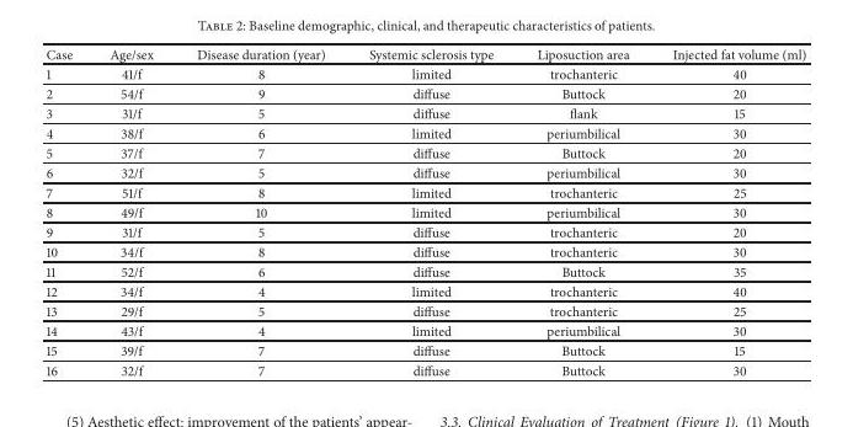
<table><thead><tr><td>Case</td><td>Age/sex</td><td>Disease duration (year)</td><td>Systemic sclerosis type</td><td>Liposuction area</td><td>Injected fat volume (ml)</td></tr></thead><tbody><tr><td>1</td><td>41/f</td><td>8</td><td>limited</td><td>trochanteric</td><td>40</td></tr><tr><td>2</td><td>54/f</td><td>9</td><td>diffuse</td><td>Buttock</td><td>20</td></tr><tr><td>3</td><td>31/f</td><td>5</td><td>diffuse</td><td>flank</td><td>15</td></tr><tr><td>4</td><td>38/f</td><td>6</td><td>limited</td><td>periumbilical</td><td>30</td></tr><tr><td>5</td><td>37/f</td><td>7</td><td>diffuse</td><td>Buttock</td><td>20</td></tr><tr><td>6</td><td>32/f</td><td>5</td><td>diffuse</td><td>periumbilical</td><td>30</td></tr><tr><td>7</td><td>51/f</td><td>8</td><td>limited</td><td>trochanteric</td><td>25</td></tr><tr><td>8</td><td>49/f</td><td>10</td><td>limited</td><td>periumbilical</td><td>30</td></tr><tr><td>9</td><td>31/f</td><td>5</td><td>diffuse</td><td>trochanteric</td><td>20</td></tr><tr><td>10</td><td>34/f</td><td>8</td><td>diffuse</td><td>trochanteric</td><td>30</td></tr><tr><td>11</td><td>52/f</td><td>6</td><td>diffuse</td><td>Buttock</td><td>35</td></tr><tr><td>12</td><td>34/f</td><td>4</td><td>limited</td><td>trochanteric</td><td>40</td></tr><tr><td>13</td><td>29/f</td><td>5</td><td>diffuse</td><td>trochanteric</td><td>25</td></tr><tr><td>14</td><td>43/f</td><td>4</td><td>limited</td><td>periumbilical</td><td>30</td></tr><tr><td>15</td><td>39/f</td><td>7</td><td>diffuse</td><td>Buttock</td><td>15</td></tr><tr><td>16</td><td>32/f</td><td>7</td><td>diffuse</td><td>Buttock</td><td>30</td></tr></tbody></table>